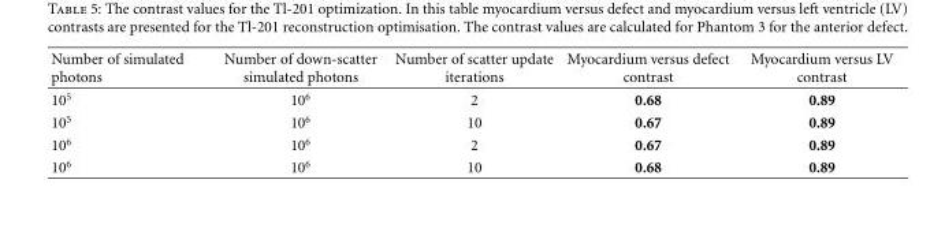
<table><thead><tr><td>Number of simulated photons</td><td>Number of down-scatter simulated photons</td><td>Number of scatter update iterations</td><td>Myocardium versus defect contrast</td><td>Myocardium versus LV contrast</td></tr></thead><tbody><tr><td>10<sup>5</sup></td><td>10<sup>6</sup></td><td>2</td><td>0.68</td><td>0.89</td></tr><tr><td>10<sup>5</sup></td><td>10<sup>6</sup></td><td>10</td><td>0.67</td><td>0.89</td></tr><tr><td>10<sup>6</sup></td><td>10<sup>6</sup></td><td>2</td><td>0.67</td><td>0.89</td></tr><tr><td>10<sup>6</sup></td><td>10<sup>6</sup></td><td>10</td><td>0.68</td><td>0.89</td></tr></tbody></table>